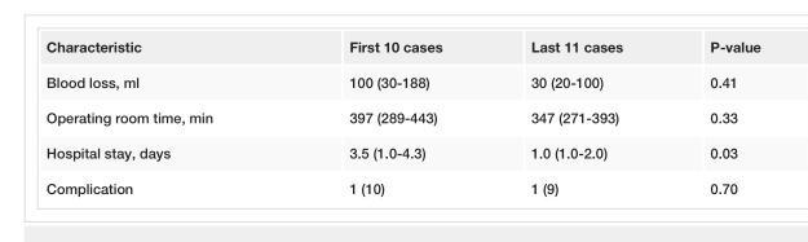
<table><tbody><tr><td>Characteristic</td><td>First 10 cases</td><td>Last 11 cases</td><td>P-value</td></tr><tr><td>Blood loss, ml</td><td>100 (30-188)</td><td>30 (20-100)</td><td>0.41</td></tr><tr><td>Operating room time, min</td><td>397 (289-443)</td><td>347 (271-393)</td><td>0.33</td></tr><tr><td>Hospital stay, days</td><td>3.5 (1.0-4.3)</td><td>1.0 (1.0-2.0)</td><td>0.03</td></tr><tr><td>Complication</td><td>1 (10)</td><td>1 (9)</td><td>0.70</td></tr></tbody></table>